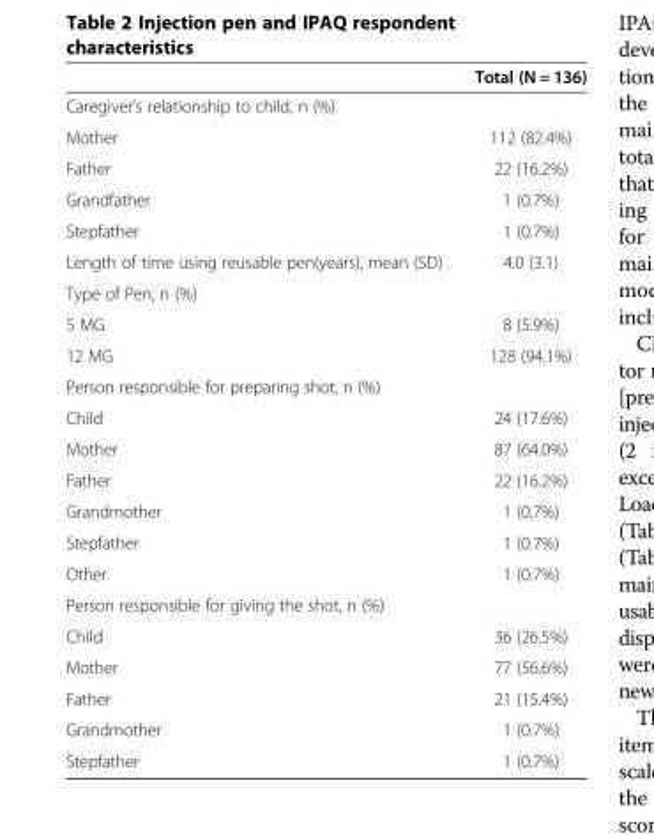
<table><thead><tr><td></td><td>Total (N = 136)</td></tr></thead><tbody><tr><td colspan="2">Caregiver’s relationship to child, n (%)</td></tr><tr><td>Mother</td><td>112 (82.4%)</td></tr><tr><td>Father</td><td>22 (16.2%)</td></tr><tr><td>Grandfather</td><td>1 (0.7%)</td></tr><tr><td>Stepfather</td><td>1 (0.7%)</td></tr><tr><td>Length of time using reusable pen(years), mean (SD)</td><td>4.0 (3.1)</td></tr><tr><td colspan="2">Type of Pen, n (%)</td></tr><tr><td>5 MG</td><td>8 (5.9%)</td></tr><tr><td>12 MG</td><td>128 (94.1%)</td></tr><tr><td colspan="2">Person responsible for preparing shot, n (%)</td></tr><tr><td>Child</td><td>24 (17.6%)</td></tr><tr><td>Mother</td><td>87 (64.0%)</td></tr><tr><td>Father</td><td>22 (16.2%)</td></tr><tr><td>Grandmother</td><td>1 (0.7%)</td></tr><tr><td>Stepfather</td><td>1 (0.7%)</td></tr><tr><td>Other</td><td>1 (0.7%)</td></tr><tr><td colspan="2">Person responsible for giving the shot, n (%)</td></tr><tr><td>Child</td><td>36 (26.5%)</td></tr><tr><td>Mother</td><td>77 (56.6%)</td></tr><tr><td>Father</td><td>21 (15.4%)</td></tr><tr><td>Grandmother</td><td>1 (0.7%)</td></tr><tr><td>Stepfather</td><td>1 (0.7%)</td></tr></tbody></table>